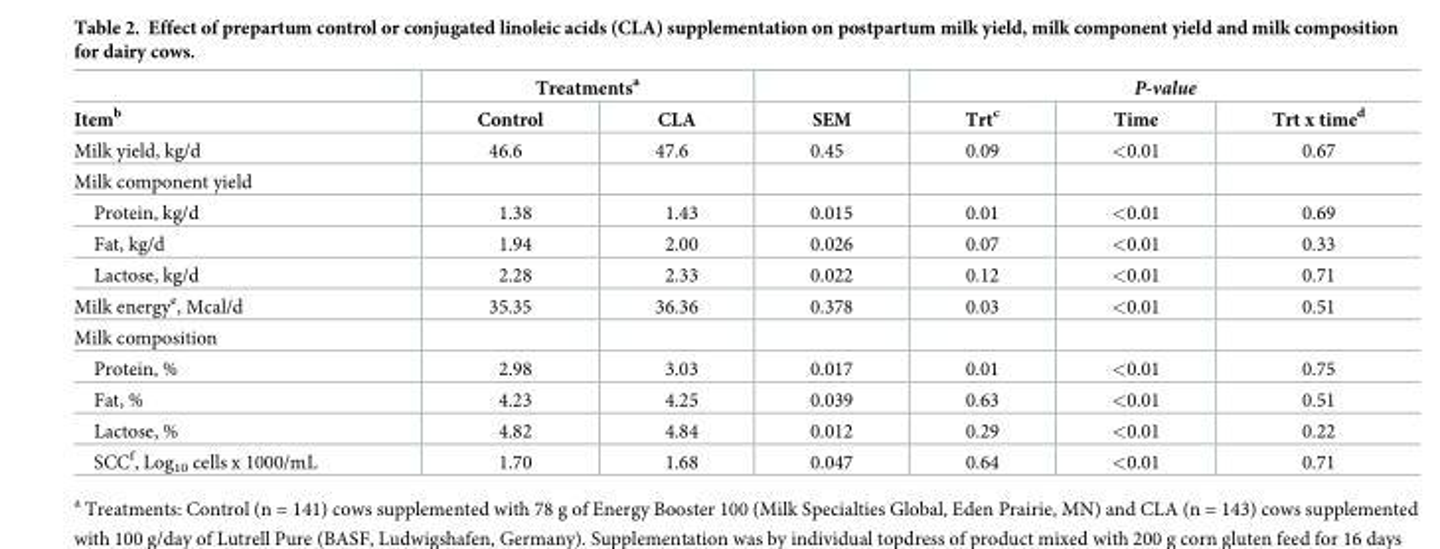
<table><thead><tr><td rowspan="2">Item<sup>b</sup></td><td colspan="2">Treatments<sup>a</sup></td><td rowspan="2">SEM</td><td colspan="3">P-value</td></tr><tr><td>Control</td><td>CLA</td><td>Trt<sup>c</sup></td><td>Time</td><td>Trt x time<sup>d</sup></td></tr></thead><tbody><tr><td>Milk yield, kg/d</td><td>46.6</td><td>47.6</td><td>0.45</td><td>0.09</td><td>&lt;0.01</td><td>0.67</td></tr><tr><td colspan="7">Milk component yield</td></tr><tr><td>Protein, kg/d</td><td>1.38</td><td>1.43</td><td>0.015</td><td>0.01</td><td>&lt;0.01</td><td>0.69</td></tr><tr><td>Fat, kg/d</td><td>1.94</td><td>2.00</td><td>0.026</td><td>0.07</td><td>&lt;0.01</td><td>0.33</td></tr><tr><td>Lactose, kg/d</td><td>2.28</td><td>2.33</td><td>0.022</td><td>0.12</td><td>&lt;0.01</td><td>0.71</td></tr><tr><td>Milk energy<sup>e</sup>, Mcal/d</td><td>35.35</td><td>36.36</td><td>0.378</td><td>0.03</td><td>&lt;0.01</td><td>0.51</td></tr><tr><td colspan="7">Milk composition</td></tr><tr><td>Protein, %</td><td>2.98</td><td>3.03</td><td>0.017</td><td>0.01</td><td>&lt;0.01</td><td>0.75</td></tr><tr><td>Fat, %</td><td>4.23</td><td>4.25</td><td>0.039</td><td>0.63</td><td>&lt;0.01</td><td>0.51</td></tr><tr><td>Lactose, %</td><td>4.82</td><td>4.84</td><td>0.012</td><td>0.29</td><td>&lt;0.01</td><td>0.22</td></tr><tr><td>SCC<sup>f</sup>, Log<sub>10</sub> cells x 1000/mL</td><td>1.70</td><td>1.68</td><td>0.047</td><td>0.64</td><td>&lt;0.01</td><td>0.71</td></tr></tbody></table>